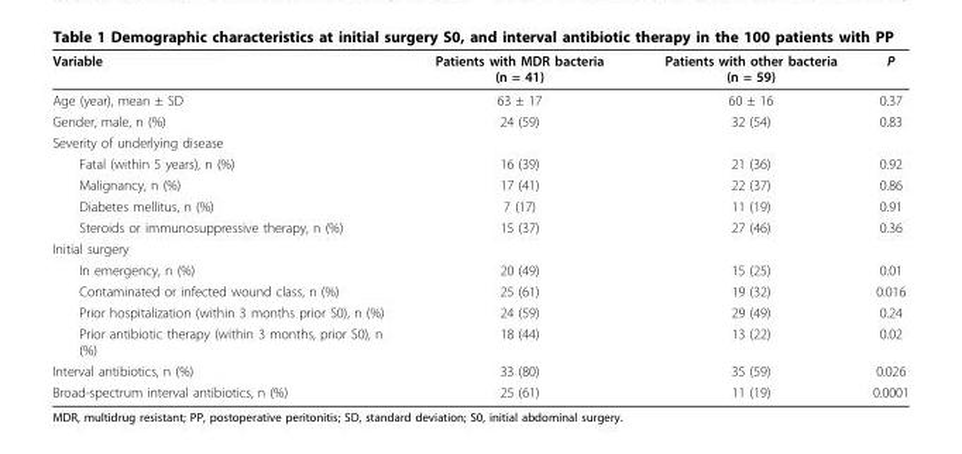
<table><thead><tr><td>Variable</td><td>Patients with MDR bacteria (n = 41)</td><td>Patients with other bacteria (n = 59)</td><td>P</td></tr></thead><tbody><tr><td>Age (year), mean ± SD</td><td>63 ± 17</td><td>60 ± 16</td><td>0.37</td></tr><tr><td>Gender, male, n (%)</td><td>24 (59)</td><td>32 (54)</td><td>0.83</td></tr><tr><td colspan="4">Severity of underlying disease</td></tr><tr><td>Fatal (within 5 years), n (%)</td><td>16 (39)</td><td>21 (36)</td><td>0.92</td></tr><tr><td>Malignancy, n (%)</td><td>17 (41)</td><td>22 (37)</td><td>0.86</td></tr><tr><td>Diabetes mellitus, n (%)</td><td>7 (17)</td><td>11 (19)</td><td>0.91</td></tr><tr><td>Steroids or immunosuppressive therapy, n (%)</td><td>15 (37)</td><td>27 (46)</td><td>0.36</td></tr><tr><td colspan="4">Initial surgery</td></tr><tr><td>In emergency, n (%)</td><td>20 (49)</td><td>15 (25)</td><td>0.01</td></tr><tr><td>Contaminated or infected wound class, n (%)</td><td>25 (61)</td><td>19 (32)</td><td>0.016</td></tr><tr><td>Prior hospitalization (within 3 months prior S0), n (%)</td><td>24 (59)</td><td>29 (49)</td><td>0.24</td></tr><tr><td>Prior antibiotic therapy (within 3 months, prior S0), n (%)</td><td>18 (44)</td><td>13 (22)</td><td>0.02</td></tr><tr><td>Interval antibiotics, n (%)</td><td>33 (80)</td><td>35 (59)</td><td>0.026</td></tr><tr><td>Broad-spectrum interval antibiotics, n (%)</td><td>25 (61)</td><td>11 (19)</td><td>0.0001</td></tr></tbody></table>